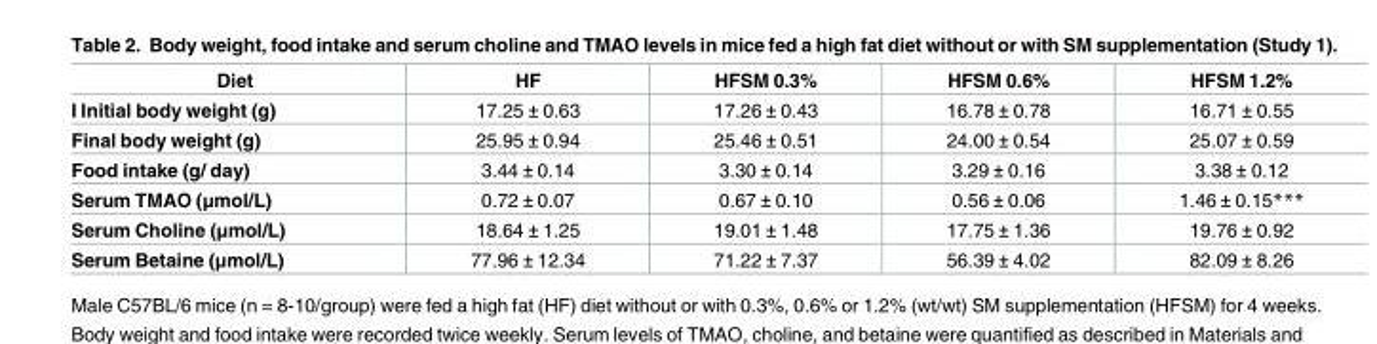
<table><thead><tr><td>Diet</td><td>HF</td><td>HFSM 0.3%</td><td>HFSM 0.6%</td><td>HFSM 1.2%</td></tr></thead><tbody><tr><td>I Initial body weight (g)</td><td>17.25 ± 0.63</td><td>17.26 ± 0.43</td><td>16.78 ± 0.78</td><td>16.71 ± 0.55</td></tr><tr><td>Final body weight (g)</td><td>25.95 ± 0.94</td><td>25.46 ± 0.51</td><td>24.00 ± 0.54</td><td>25.07 ± 0.59</td></tr><tr><td>Food intake (g/ day)</td><td>3.44 ± 0.14</td><td>3.30 ± 0.14</td><td>3.29 ± 0.16</td><td>3.38 ± 0.12</td></tr><tr><td>Serum TMAO (μmol/L)</td><td>0.72 ± 0.07</td><td>0.67 ± 0.10</td><td>0.56 ± 0.06</td><td>1.46 ± 0.15***</td></tr><tr><td>Serum Choline (μmol/L)</td><td>18.64 ± 1.25</td><td>19.01 ± 1.48</td><td>17.75 ± 1.36</td><td>19.76 ± 0.92</td></tr><tr><td>Serum Betaine (μmol/L)</td><td>77.96 ± 12.34</td><td>71.22 ± 7.37</td><td>56.39 ± 4.02</td><td>82.09 ± 8.26</td></tr></tbody></table>